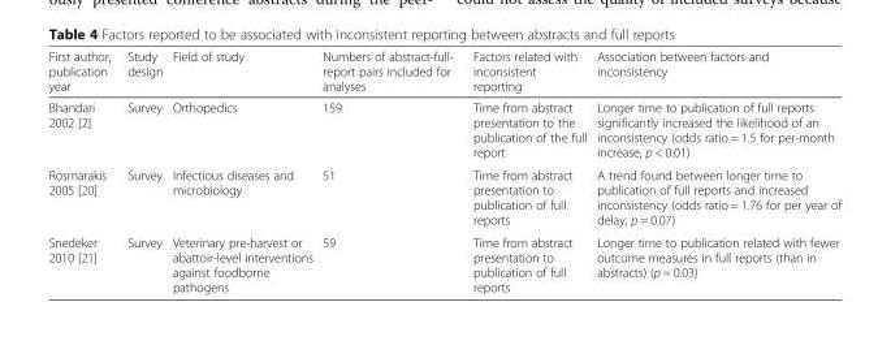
<table><thead><tr><td>First author, publication year</td><td>Study design</td><td>Field of study</td><td>Numbers of abstract-full- report pairs included for analyses</td><td>Factors related with inconsistent reporting</td><td>Association between factors and inconsistency</td></tr></thead><tbody><tr><td>Bhandari 2002 [2]</td><td>Survey</td><td>Orthopedics</td><td>159</td><td>Time from abstract presentation to the publication of the full report</td><td>Longer time to publication of full reports significantly increased the likelihood of an inconsistency (odds ratio = 1.5 for per-month increase, p &lt; 0.01)</td></tr><tr><td>Rosmarakis 2005 [20]</td><td>Survey</td><td>Infectious diseases and microbiology</td><td>51</td><td>Time from abstract presentation to publication of full reports</td><td>A trend found between longer time to publication of full reports and increased inconsistency (odds ratio = 1.76 for per year of delay, p = 0.07)</td></tr><tr><td>Snedeker 2010 [21]</td><td>Survey</td><td>Veterinary pre-harvest or abattoir-level interventions against foodborne pathogens</td><td>59</td><td>Time from abstract presentation to publication of full reports</td><td>Longer time to publication related with fewer outcome measures in full reports (than in abstracts) (p = 0.03)</td></tr></tbody></table>